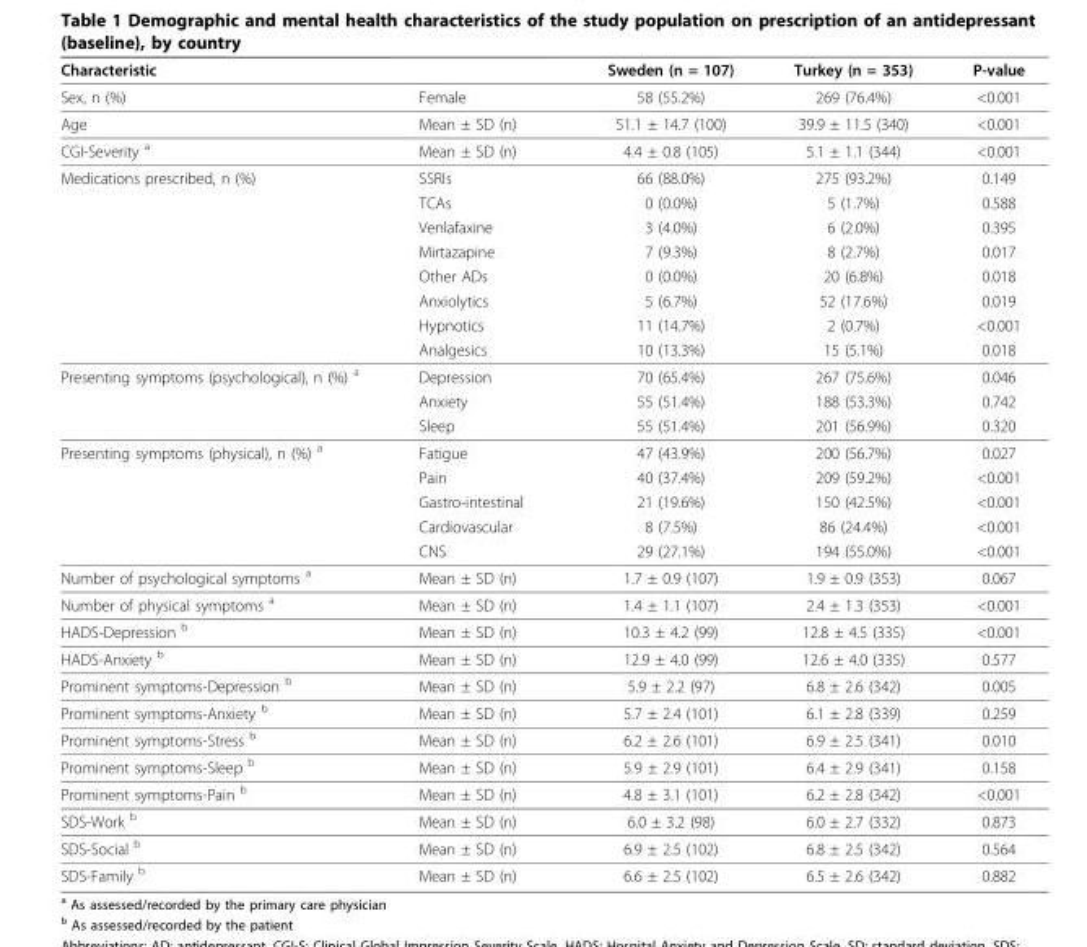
<table><thead><tr><td colspan="2">Characteristic</td><td rowspan="2">Sweden (n = 107) 58 (55.2%)</td><td rowspan="2">Turkey (n = 353) 269 (76.4%)</td><td rowspan="2">P-value &lt;0.001</td></tr><tr><td>Sex, n (%)</td><td>Female</td></tr></thead><tbody><tr><td>Age</td><td>Mean ± SD (n)</td><td>51.1 ± 14.7 (100)</td><td>39.9 ± 11.5 (340)</td><td>&lt;0.001</td></tr><tr><td>CGI-Severity <sup>a</sup></td><td>Mean ± SD (n)</td><td>4.4 ± 0.8 (105)</td><td>5.1 ± 1.1 (344)</td><td>&lt;0.001</td></tr><tr><td rowspan="8">Medications prescribed, n (%)</td><td>SSRIs</td><td>66 (88.0%)</td><td>275 (93.2%)</td><td>0.149</td></tr><tr><td>TCAs</td><td>0 (0.0%)</td><td>5 (1.7%)</td><td>0.588</td></tr><tr><td>Venlafaxine</td><td>3 (4.0%)</td><td>6 (2.0%)</td><td>0.395</td></tr><tr><td>Mirtazapine</td><td>7 (9.3%)</td><td>8 (2.7%)</td><td>0.017</td></tr><tr><td>Other ADs</td><td>0 (0.0%)</td><td>20 (6.8%)</td><td>0.018</td></tr><tr><td>Anxiolytics</td><td>5 (6.7%)</td><td>52 (17.6%)</td><td>0.019</td></tr><tr><td>Hypnotics</td><td>11 (14.7%)</td><td>2 (0.7%)</td><td>&lt;0.001</td></tr><tr><td>Analgesics</td><td>10 (13.3%)</td><td>15 (5.1%)</td><td>0.018</td></tr><tr><td rowspan="3">Presenting symptoms (psychological), n (%) <sup>a</sup></td><td>Depression</td><td>70 (65.4%)</td><td>267 (75.6%)</td><td>0.046</td></tr><tr><td>Anxiety</td><td>55 (51.4%)</td><td>188 (53.3%)</td><td>0.742</td></tr><tr><td>Sleep</td><td>55 (51.4%)</td><td>201 (56.9%)</td><td>0.320</td></tr><tr><td rowspan="5">Presenting symptoms (physical), n (%) <sup>a</sup></td><td>Fatigue</td><td>47 (43.9%)</td><td>200 (56.7%)</td><td>0.027</td></tr><tr><td>Pain</td><td>40 (37.4%)</td><td>209 (59.2%)</td><td>&lt;0.001</td></tr><tr><td>Gastro-intestinal</td><td>21 (19.6%)</td><td>150 (42.5%)</td><td>&lt;0.001</td></tr><tr><td>Cardiovascular</td><td>8 (7.5%)</td><td>86 (24.4%)</td><td>&lt;0.001</td></tr><tr><td>CNS</td><td>29 (27.1%)</td><td>194 (55.0%)</td><td>&lt;0.001</td></tr><tr><td>Number of psychological symptoms <sup>a</sup></td><td>Mean ± SD (n)</td><td>1.7 ± 0.9 (107)</td><td>1.9 ± 0.9 (353)</td><td>0.067</td></tr><tr><td>Number of physical symptoms <sup>a</sup></td><td>Mean ± SD (n)</td><td>1.4 ± 1.1 (107)</td><td>2.4 ± 1.3 (353)</td><td>&lt;0.001</td></tr><tr><td>HADS-Depression <sup>b</sup></td><td>Mean ± SD (n)</td><td>10.3 ± 4.2 (99)</td><td>12.8 ± 4.5 (335)</td><td>&lt;0.001</td></tr><tr><td>HADS-Anxiety <sup>b</sup></td><td>Mean ± SD (n)</td><td>12.9 ± 4.0 (99)</td><td>12.6 ± 4.0 (335)</td><td>0.577</td></tr><tr><td>Prominent symptoms-Depression <sup>b</sup></td><td>Mean ± SD (n)</td><td>5.9 ± 2.2 (97)</td><td>6.8 ± 2.6 (342)</td><td>0.005</td></tr><tr><td>Prominent symptoms-Anxiety <sup>b</sup></td><td>Mean ± SD (n)</td><td>5.7 ± 2.4 (101)</td><td>6.1 ± 2.8 (339)</td><td>0.259</td></tr><tr><td>Prominent symptoms-Stress <sup>b</sup></td><td>Mean ± SD (n)</td><td>6.2 ± 2.6 (101)</td><td>6.9 ± 2.5 (341)</td><td>0.010</td></tr><tr><td>Prominent symptoms-Sleep <sup>b</sup></td><td>Mean ± SD (n)</td><td>5.9 ± 2.9 (101)</td><td>6.4 ± 2.9 (341)</td><td>0.158</td></tr><tr><td>Prominent symptoms-Pain <sup>b</sup></td><td>Mean ± SD (n)</td><td>4.8 ± 3.1 (101)</td><td>6.2 ± 2.8 (342)</td><td>&lt;0.001</td></tr><tr><td>SDS-Work <sup>b</sup></td><td>Mean ± SD (n)</td><td>6.0 ± 3.2 (98)</td><td>6.0 ± 2.7 (332)</td><td>0.873</td></tr><tr><td>SDS-Social <sup>b</sup></td><td>Mean ± SD (n)</td><td>6.9 ± 2.5 (102)</td><td>6.8 ± 2.5 (342)</td><td>0.564</td></tr><tr><td>SDS-Family <sup>b</sup></td><td>Mean ± SD (n)</td><td>6.6 ± 2.5 (102)</td><td>6.5 ± 2.6 (342)</td><td>0.882</td></tr></tbody></table>